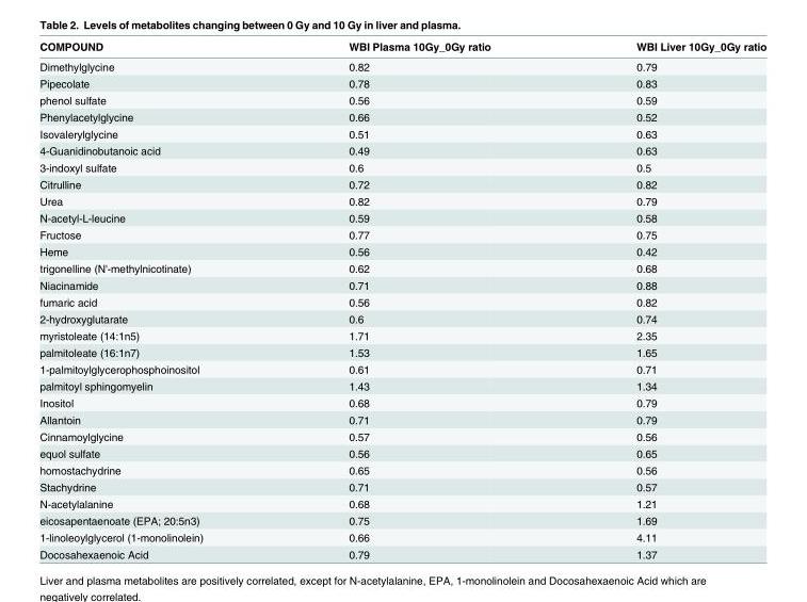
<table><thead><tr><td>COMPOUND</td><td>WBI Plasma 10Gy_0Gy ratio</td><td>WBI Liver 10Gy_0Gy ratio</td></tr></thead><tbody><tr><td>Dimethylglycine</td><td>0.82</td><td>0.79</td></tr><tr><td>Pipecolate</td><td>0.78</td><td>0.83</td></tr><tr><td>phenol sulfate</td><td>0.56</td><td>0.59</td></tr><tr><td>Phenylacetylglycine</td><td>0.66</td><td>0.52</td></tr><tr><td>Isovalerylglycine</td><td>0.51</td><td>0.63</td></tr><tr><td>4-Guanidinobutanoic acid</td><td>0.49</td><td>0.63</td></tr><tr><td>3-indoxyl sulfate</td><td>0.6</td><td>0.5</td></tr><tr><td>Citrulline</td><td>0.72</td><td>0.82</td></tr><tr><td>Urea</td><td>0.82</td><td>0.79</td></tr><tr><td>N-acetyl-L-leucine</td><td>0.59</td><td>0.58</td></tr><tr><td>Fructose</td><td>0.77</td><td>0.75</td></tr><tr><td>Heme</td><td>0.56</td><td>0.42</td></tr><tr><td>trigonelline (N&#x27;-methylnicotinate)</td><td>0.62</td><td>0.68</td></tr><tr><td>Niacinamide</td><td>0.71</td><td>0.88</td></tr><tr><td>fumaric acid</td><td>0.56</td><td>0.82</td></tr><tr><td>2-hydroxyglutarate</td><td>0.6</td><td>0.74</td></tr><tr><td>myristoleate (14:1n5)</td><td>1.71</td><td>2.35</td></tr><tr><td>palmitoleate (16:1n7)</td><td>1.53</td><td>1.65</td></tr><tr><td>1-palmitoylglycerophosphoinositol</td><td>0.61</td><td>0.71</td></tr><tr><td>palmitoyl sphingomyelin</td><td>1.43</td><td>1.34</td></tr><tr><td>Inositol</td><td>0.68</td><td>0.79</td></tr><tr><td>Allantoin</td><td>0.71</td><td>0.79</td></tr><tr><td>Cinnamoylglycine</td><td>0.57</td><td>0.56</td></tr><tr><td>equol sulfate</td><td>0.56</td><td>0.65</td></tr><tr><td>homostachydrine</td><td>0.65</td><td>0.56</td></tr><tr><td>Stachydrine</td><td>0.71</td><td>0.57</td></tr><tr><td>N-acetylalanine</td><td>0.68</td><td>1.21</td></tr><tr><td>eicosapentaenoate (EPA; 20:5n3)</td><td>0.75</td><td>1.69</td></tr><tr><td>1-linoleoylglycerol (1-monolinolein)</td><td>0.66</td><td>4.11</td></tr><tr><td>Docosahexaenoic Acid</td><td>0.79</td><td>1.37</td></tr></tbody></table>